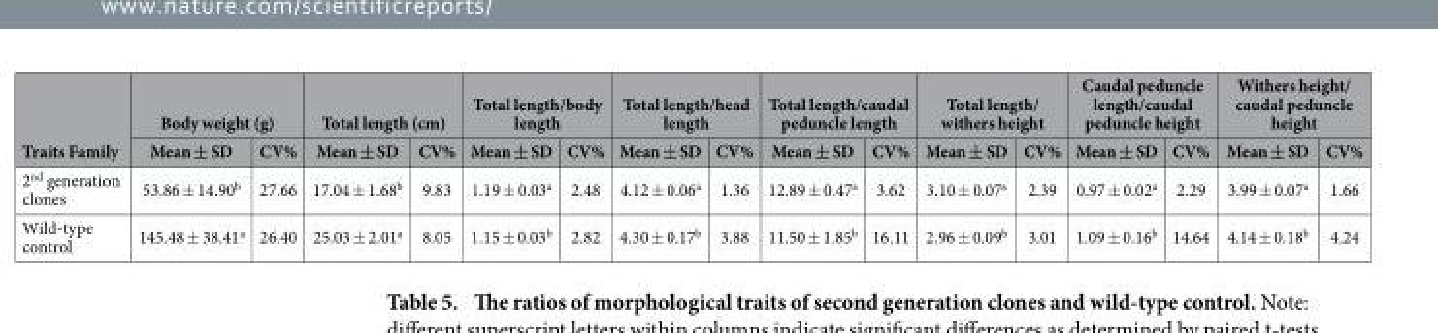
<table><thead><tr><td rowspan="2">Traits Family</td><td colspan="2">Body weight (g)</td><td colspan="2">Total length (cm)</td><td colspan="2">Total length/body length</td><td colspan="2">Total length/head length</td><td colspan="2">Total length/caudal peduncle length</td><td colspan="2">Total length/ withers height</td><td colspan="2">Caudal peduncle length/caudal peduncle height</td><td colspan="2">Withers height/ caudal peduncle height</td></tr><tr><td>Mean ± SD</td><td>CV%</td><td>Mean ± SD</td><td>CV%</td><td>Mean ± SD</td><td>CV%</td><td>Mean ± SD</td><td>CV%</td><td>Mean ± SD</td><td>CV%</td><td>Mean ± SD</td><td>CV%</td><td>Mean ± SD</td><td>CV%</td><td>Mean ± SD</td><td>CV%</td></tr></thead><tbody><tr><td>2<sup>nd</sup> generation clones</td><td>53.86 ± 14.90<sup>b</sup></td><td>27.66</td><td>17.04 ± 1.68<sup>b</sup></td><td>9.83</td><td>1.19 ± 0.03<sup>a</sup></td><td>2.48</td><td>4.12 ± 0.06<sup>a</sup></td><td>1.36</td><td>12.89 ± 0.47<sup>a</sup></td><td>3.62</td><td>3.10 ± 0.07<sup>a</sup></td><td>2.39</td><td>0.97 ± 0.02<sup>a</sup></td><td>2.29</td><td>3.99 ± 0.07<sup>a</sup></td><td>1.66</td></tr><tr><td>Wild-type control</td><td>145.48 ± 38.41<sup>a</sup></td><td>26.40</td><td>25.03 ± 2.01<sup>a</sup></td><td>8.05</td><td>1.15 ± 0.03<sup>b</sup></td><td>2.82</td><td>4.30 ± 0.17<sup>b</sup></td><td>3.88</td><td>11.50 ± 1.85<sup>b</sup></td><td>16.11</td><td>2.96 ± 0.09<sup>b</sup></td><td>3.01</td><td>1.09 ± 0.16<sup>b</sup></td><td>14.64</td><td>4.14 ± 0.18<sup>b</sup></td><td>4.24</td></tr></tbody></table>